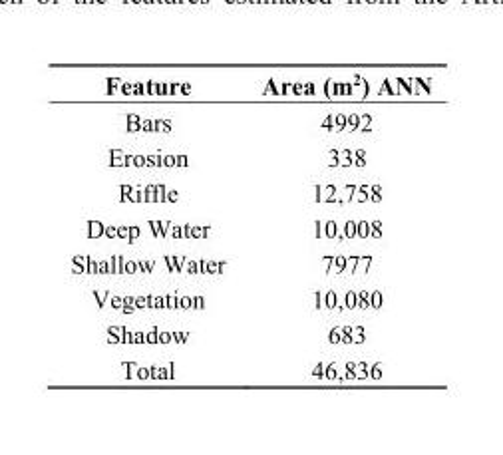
<table><thead><tr><td>Feature</td><td>Area (m<sup>2</sup>) ANN</td></tr></thead><tbody><tr><td>Bars</td><td>4992</td></tr><tr><td>Erosion</td><td>338</td></tr><tr><td>Riffle</td><td>12,758</td></tr><tr><td>Deep Water</td><td>10,008</td></tr><tr><td>Shallow Water</td><td>7977</td></tr><tr><td>Vegetation</td><td>10,080</td></tr><tr><td>Shadow</td><td>683</td></tr><tr><td>Total</td><td>46,836</td></tr></tbody></table>